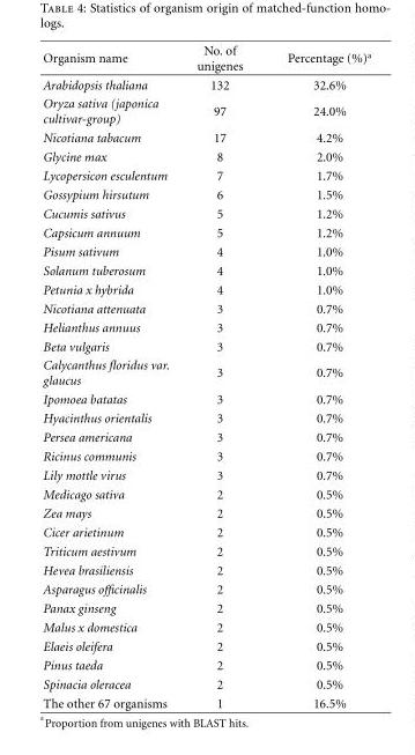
<table><thead><tr><td>Organism name</td><td>No. of unigenes</td><td>Percentage (%)<sup>a</sup></td></tr></thead><tbody><tr><td>Arabidopsis thaliana</td><td>132</td><td>32.6%</td></tr><tr><td>Oryza sativa (japonica cultivar-group)</td><td>97</td><td>24.0%</td></tr><tr><td>Nicotiana tabacum</td><td>17</td><td>4.2%</td></tr><tr><td>Glycine max</td><td>8</td><td>2.0%</td></tr><tr><td>Lycopersicon esculentum</td><td>7</td><td>1.7%</td></tr><tr><td>Gossypium hirsutum</td><td>6</td><td>1.5%</td></tr><tr><td>Cucumis sativus</td><td>5</td><td>1.2%</td></tr><tr><td>Capsicum annuum</td><td>5</td><td>1.2%</td></tr><tr><td>Pisum sativum</td><td>4</td><td>1.0%</td></tr><tr><td>Solanum tuberosum</td><td>4</td><td>1.0%</td></tr><tr><td>Petunia x hybrida</td><td>4</td><td>1.0%</td></tr><tr><td>Nicotiana attenuata</td><td>3</td><td>0.7%</td></tr><tr><td>Helianthus annuus</td><td>3</td><td>0.7%</td></tr><tr><td>Beta vulgaris</td><td>3</td><td>0.7%</td></tr><tr><td>Calycanthus floridus var. glaucus</td><td>3</td><td>0.7%</td></tr><tr><td>Ipomoea batatas</td><td>3</td><td>0.7%</td></tr><tr><td>Hyacinthus orientalis</td><td>3</td><td>0.7%</td></tr><tr><td>Persea americana</td><td>3</td><td>0.7%</td></tr><tr><td>Ricinus communis</td><td>3</td><td>0.7%</td></tr><tr><td>Lily mottle virus</td><td>3</td><td>0.7%</td></tr><tr><td>Medicago sativa</td><td>2</td><td>0.5%</td></tr><tr><td>Zea mays</td><td>2</td><td>0.5%</td></tr><tr><td>Cicer arietinum</td><td>2</td><td>0.5%</td></tr><tr><td>Triticum aestivum</td><td>2</td><td>0.5%</td></tr><tr><td>Hevea brasiliensis</td><td>2</td><td>0.5%</td></tr><tr><td>Asparagus officinalis</td><td>2</td><td>0.5%</td></tr><tr><td>Panax ginseng</td><td>2</td><td>0.5%</td></tr><tr><td>Malus x domestica</td><td>2</td><td>0.5%</td></tr><tr><td>Elaeis oleifera</td><td>2</td><td>0.5%</td></tr><tr><td>Pinus taeda</td><td>2</td><td>0.5%</td></tr><tr><td>Spinacia oleracea</td><td>2</td><td>0.5%</td></tr><tr><td>The other 67 organisms</td><td>1</td><td>16.5%</td></tr></tbody></table>